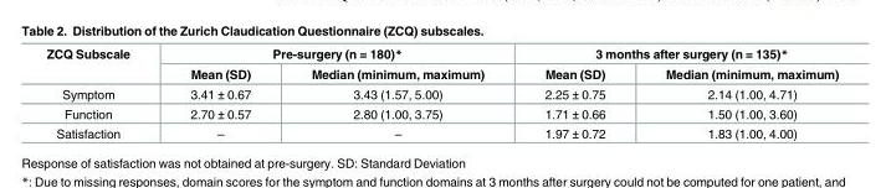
<table><thead><tr><td rowspan="2">ZCQ Subscale</td><td colspan="2">Pre-surgery (n = 180)*</td><td colspan="2">3 months after surgery (n = 135)*</td></tr><tr><td>Mean (SD)</td><td>Median (minimum, maximum)</td><td>Mean (SD)</td><td>Median (minimum, maximum)</td></tr></thead><tbody><tr><td>Symptom</td><td>3.41 ± 0.67</td><td>3.43 (1.57, 5.00)</td><td>2.25 ± 0.75</td><td>2.14 (1.00, 4.71)</td></tr><tr><td>Function</td><td>2.70 ± 0.57</td><td>2.80 (1.00, 3.75)</td><td>1.71 ± 0.66</td><td>1.50 (1.00, 3.60)</td></tr><tr><td>Satisfaction</td><td>–</td><td>–</td><td>1.97 ± 0.72</td><td>1.83 (1.00, 4.00)</td></tr></tbody></table>